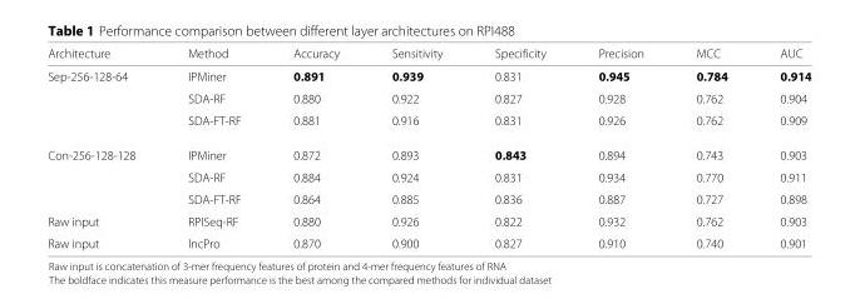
<table><thead><tr><td>Architecture</td><td>Method</td><td>Accuracy</td><td>Sensitivity</td><td>Specificity</td><td>Precision</td><td>MCC</td><td>AUC</td></tr></thead><tbody><tr><td rowspan="3">Sep-256-128-64</td><td>IPMiner</td><td>0.891</td><td>0.939</td><td>0.831</td><td>0.945</td><td>0.784</td><td>0.914</td></tr><tr><td>SDA-RF</td><td>0.880</td><td>0.922</td><td>0.827</td><td>0.928</td><td>0.762</td><td>0.904</td></tr><tr><td>SDA-FT-RF</td><td>0.881</td><td>0.916</td><td>0.831</td><td>0.926</td><td>0.762</td><td>0.909</td></tr><tr><td rowspan="3">Con-256-128-128</td><td>IPMiner</td><td>0.872</td><td>0.893</td><td>0.843</td><td>0.894</td><td>0.743</td><td>0.903</td></tr><tr><td>SDA-RF</td><td>0.884</td><td>0.924</td><td>0.831</td><td>0.934</td><td>0.770</td><td>0.911</td></tr><tr><td>SDA-FT-RF</td><td>0.864</td><td>0.885</td><td>0.836</td><td>0.887</td><td>0.727</td><td>0.898</td></tr><tr><td>Raw input</td><td>RPISeq-RF</td><td>0.880</td><td>0.926</td><td>0.822</td><td>0.932</td><td>0.762</td><td>0.903</td></tr><tr><td>Raw input</td><td>lncPro</td><td>0.870</td><td>0.900</td><td>0.827</td><td>0.910</td><td>0.740</td><td>0.901</td></tr></tbody></table>